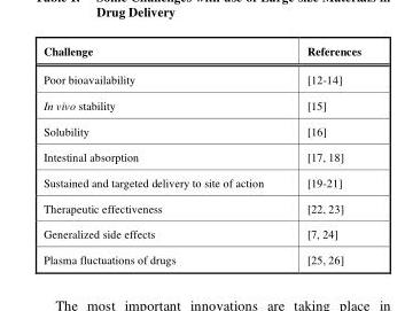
<table><thead><tr><td>Challenge</td><td>References</td></tr></thead><tbody><tr><td>Poor bioavailability</td><td>[12-14]</td></tr><tr><td>In vivo stability</td><td>[15]</td></tr><tr><td>Solubility</td><td>[16]</td></tr><tr><td>Intestinal absorption</td><td>[17, 18]</td></tr><tr><td>Sustained and targeted delivery to site of action</td><td>[19-21]</td></tr><tr><td>Therapeutic effectiveness</td><td>[22, 23]</td></tr><tr><td>Generalized side effects</td><td>[7, 24]</td></tr><tr><td>Plasma fluctuations of drugs</td><td>[25, 26]</td></tr></tbody></table>